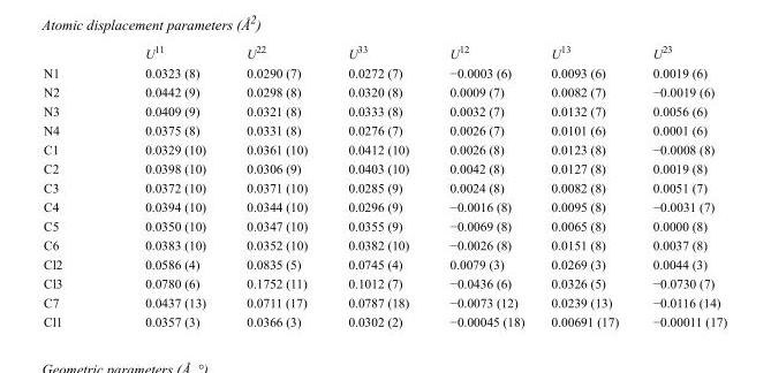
<table><thead><tr><td></td><td>U<sup>11</sup></td><td>U<sup>22</sup></td><td>U<sup>33</sup></td><td>U<sup>12</sup></td><td>U<sup>13</sup></td><td>U<sup>23</sup></td></tr></thead><tbody><tr><td>N1</td><td>0.0323 (8)</td><td>0.0290 (7)</td><td>0.0272 (7)</td><td>−0.0003 (6)</td><td>0.0093 (6)</td><td>0.0019 (6)</td></tr><tr><td>N2</td><td>0.0442 (9)</td><td>0.0298 (8)</td><td>0.0320 (8)</td><td>0.0009 (7)</td><td>0.0082 (7)</td><td>−0.0019 (6)</td></tr><tr><td>N3</td><td>0.0409 (9)</td><td>0.0321 (8)</td><td>0.0333 (8)</td><td>0.0032 (7)</td><td>0.0132 (7)</td><td>0.0056 (6)</td></tr><tr><td>N4</td><td>0.0375 (8)</td><td>0.0331 (8)</td><td>0.0276 (7)</td><td>0.0026 (7)</td><td>0.0101 (6)</td><td>0.0001 (6)</td></tr><tr><td>C1</td><td>0.0329 (10)</td><td>0.0361 (10)</td><td>0.0412 (10)</td><td>0.0026 (8)</td><td>0.0123 (8)</td><td>−0.0008 (8)</td></tr><tr><td>C2</td><td>0.0398 (10)</td><td>0.0306 (9)</td><td>0.0403 (10)</td><td>0.0042 (8)</td><td>0.0127 (8)</td><td>0.0019 (8)</td></tr><tr><td>C3</td><td>0.0372 (10)</td><td>0.0371 (10)</td><td>0.0285 (9)</td><td>0.0024 (8)</td><td>0.0082 (8)</td><td>0.0051 (7)</td></tr><tr><td>C4</td><td>0.0394 (10)</td><td>0.0344 (10)</td><td>0.0296 (9)</td><td>−0.0016 (8)</td><td>0.0095 (8)</td><td>−0.0031 (7)</td></tr><tr><td>C5</td><td>0.0350 (10)</td><td>0.0347 (10)</td><td>0.0355 (9)</td><td>−0.0069 (8)</td><td>0.0065 (8)</td><td>0.0000 (8)</td></tr><tr><td>C6</td><td>0.0383 (10)</td><td>0.0352 (10)</td><td>0.0382 (10)</td><td>−0.0026 (8)</td><td>0.0151 (8)</td><td>0.0037 (8)</td></tr><tr><td>Cl2</td><td>0.0586 (4)</td><td>0.0835 (5)</td><td>0.0745 (4)</td><td>0.0079 (3)</td><td>0.0269 (3)</td><td>0.0044 (3)</td></tr><tr><td>Cl3</td><td>0.0780 (6)</td><td>0.1752 (11)</td><td>0.1012 (7)</td><td>−0.0436 (6)</td><td>0.0326 (5)</td><td>−0.0730 (7)</td></tr><tr><td>C7</td><td>0.0437 (13)</td><td>0.0711 (17)</td><td>0.0787 (18)</td><td>−0.0073 (12)</td><td>0.0239 (13)</td><td>−0.0116 (14)</td></tr><tr><td>Cl1</td><td>0.0357 (3)</td><td>0.0366 (3)</td><td>0.0302 (2)</td><td>−0.00045 (18)</td><td>0.00691 (17)</td><td>−0.00011 (17)</td></tr></tbody></table>